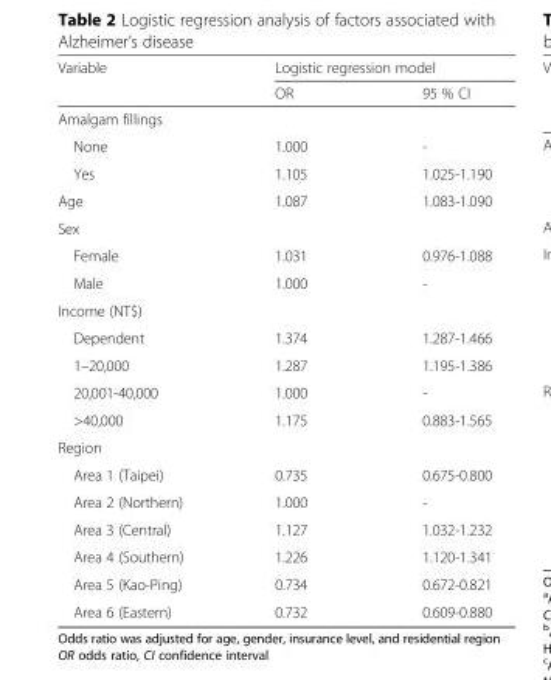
<table><thead><tr><td rowspan="2">Variable</td><td colspan="2">Logistic regression model</td></tr><tr><td>OR</td><td>95 % CI</td></tr></thead><tbody><tr><td colspan="3">Amalgam fillings</td></tr><tr><td>None</td><td>1.000</td><td>-</td></tr><tr><td>Yes</td><td>1.105</td><td>1.025-1.190</td></tr><tr><td>Age</td><td>1.087</td><td>1.083-1.090</td></tr><tr><td colspan="3">Sex</td></tr><tr><td>Female</td><td>1.031</td><td>0.976-1.088</td></tr><tr><td>Male</td><td>1.000</td><td>-</td></tr><tr><td colspan="3">Income (NT$)</td></tr><tr><td>Dependent</td><td>1.374</td><td>1.287-1.466</td></tr><tr><td>1–20,000</td><td>1.287</td><td>1.195-1.386</td></tr><tr><td>20,001-40,000</td><td>1.000</td><td>-</td></tr><tr><td>&gt;40,000</td><td>1.175</td><td>0.883-1.565</td></tr><tr><td colspan="3">Region</td></tr><tr><td>Area 1 (Taipei)</td><td>0.735</td><td>0.675-0.800</td></tr><tr><td>Area 2 (Northern)</td><td>1.000</td><td>-</td></tr><tr><td>Area 3 (Central)</td><td>1.127</td><td>1.032-1.232</td></tr><tr><td>Area 4 (Southern)</td><td>1.226</td><td>1.120-1.341</td></tr><tr><td>Area 5 (Kao-Ping)</td><td>0.734</td><td>0.672-0.821</td></tr><tr><td>Area 6 (Eastern)</td><td>0.732</td><td>0.609-0.880</td></tr></tbody></table>